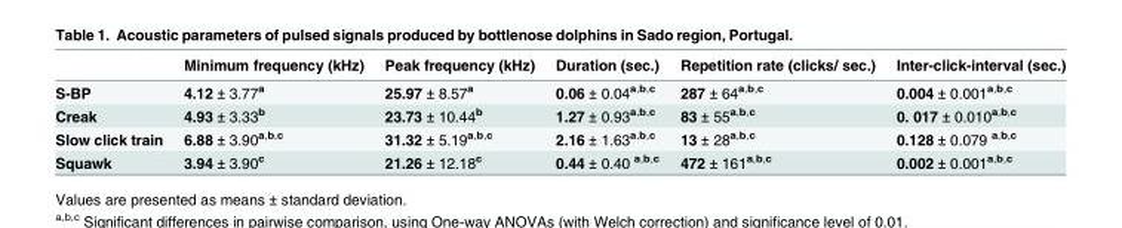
<table><thead><tr><td></td><td>Minimum frequency (kHz)</td><td>Peak frequency (kHz)</td><td>Duration (sec.)</td><td>Repetition rate (clicks/ sec.)</td><td>Inter-click-interval (sec.)</td></tr></thead><tbody><tr><td>S-BP</td><td>4.12 ± 3.77<sup>a</sup></td><td>25.97 ± 8.57<sup>a</sup></td><td>0.06 ± 0.04<sup>a,b,c</sup></td><td>287 ± 64<sup>a,b,c</sup></td><td>0.004 ± 0.001<sup>a,b,c</sup></td></tr><tr><td>Creak</td><td>4.93 ± 3.33<sup>b</sup></td><td>23.73 ± 10.44<sup>b</sup></td><td>1.27 ± 0.93<sup>a,b,c</sup></td><td>83 ± 55<sup>a,b,c</sup></td><td>0. 017 ± 0.010<sup>a,b,c</sup></td></tr><tr><td>Slow click train</td><td>6.88 ± 3.90<sup>a,b,c</sup></td><td>31.32 ± 5.19<sup>a,b,c</sup></td><td>2.16 ± 1.63<sup>a,b,c</sup></td><td>13 ± 28<sup>a,b,c</sup></td><td>0.128 ± 0.079 <sup>a,b,c</sup></td></tr><tr><td>Squawk</td><td>3.94 ± 3.90<sup>c</sup></td><td>21.26 ± 12.18<sup>c</sup></td><td>0.44 ± 0.40 <sup>a,b,c</sup></td><td>472 ± 161<sup>a,b,c</sup></td><td>0.002 ± 0.001<sup>a,b,c</sup></td></tr></tbody></table>